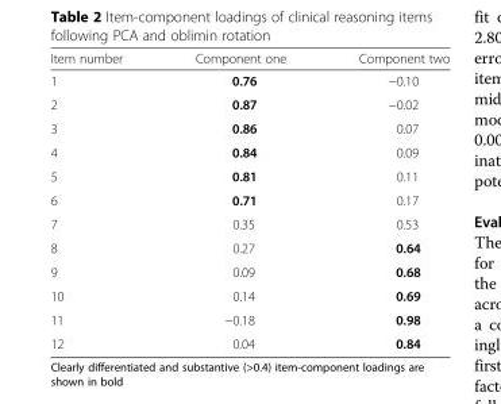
<table><thead><tr><td>Item number</td><td>Component one</td><td>Component two</td></tr></thead><tbody><tr><td>1</td><td>0.76</td><td>−0.10</td></tr><tr><td>2</td><td>0.87</td><td>−0.02</td></tr><tr><td>3</td><td>0.86</td><td>0.07</td></tr><tr><td>4</td><td>0.84</td><td>0.09</td></tr><tr><td>5</td><td>0.81</td><td>0.11</td></tr><tr><td>6</td><td>0.71</td><td>0.17</td></tr><tr><td>7</td><td>0.35</td><td>0.53</td></tr><tr><td>8</td><td>0.27</td><td>0.64</td></tr><tr><td>9</td><td>0.09</td><td>0.68</td></tr><tr><td>10</td><td>0.14</td><td>0.69</td></tr><tr><td>11</td><td>−0.18</td><td>0.98</td></tr><tr><td>12</td><td>0.04</td><td>0.84</td></tr></tbody></table>